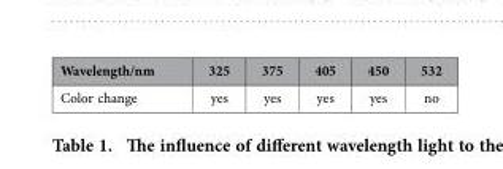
<table><thead><tr><td>Wavelength/nm</td><td>325</td><td>375</td><td>405</td><td>450</td><td>532</td></tr></thead><tbody><tr><td>Color change</td><td>yes</td><td>yes</td><td>yes</td><td>yes</td><td>no</td></tr></tbody></table>